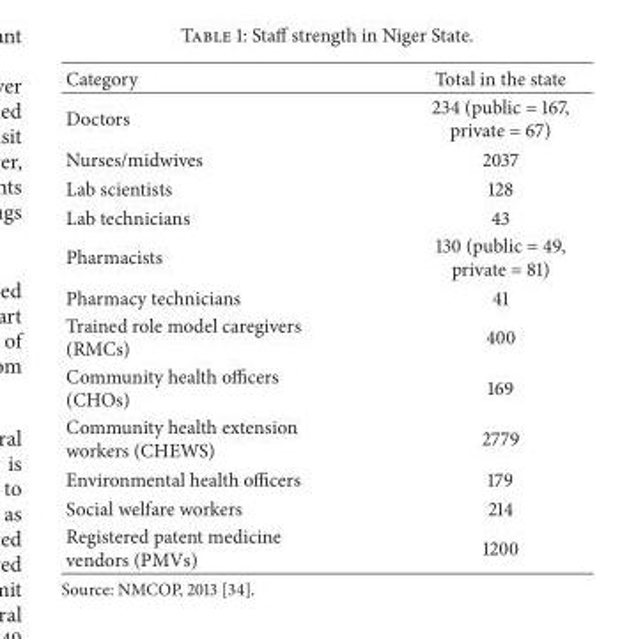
<table><thead><tr><td>Category</td><td>Total in the state</td></tr></thead><tbody><tr><td>Doctors</td><td>234 (public = 167, private = 67)</td></tr><tr><td>Nurses/midwives</td><td>2037</td></tr><tr><td>Lab scientists</td><td>128</td></tr><tr><td>Lab technicians</td><td>43</td></tr><tr><td>Pharmacists</td><td>130 (public = 49, private = 81)</td></tr><tr><td>Pharmacy technicians</td><td>41</td></tr><tr><td>Trained role model caregivers (RMCs)</td><td>400</td></tr><tr><td>Community health officers (CHOs)</td><td>169</td></tr><tr><td>Community health extension workers (CHEWS)</td><td>2779</td></tr><tr><td>Environmental health officers</td><td>179</td></tr><tr><td>Social welfare workers</td><td>214</td></tr><tr><td>Registered patent medicine vendors (PMVs)</td><td>1200</td></tr></tbody></table>